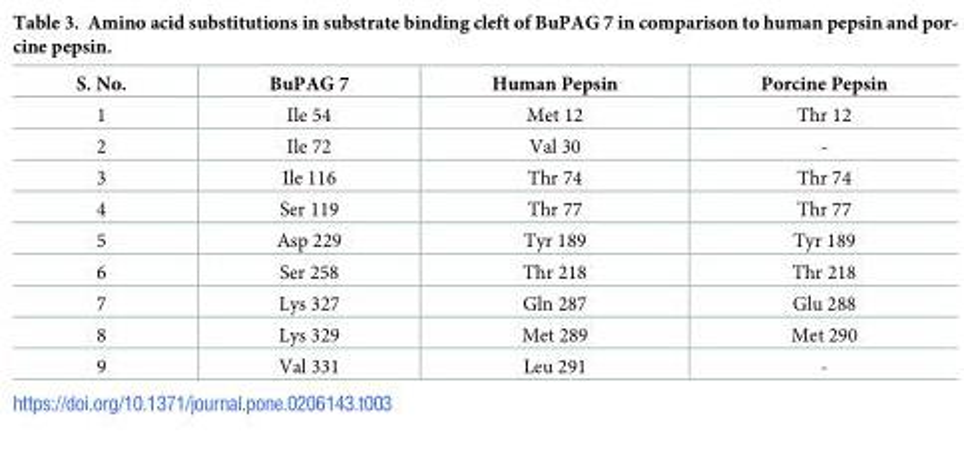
<table><thead><tr><td>S. No.</td><td>BuPAG 7</td><td>Human Pepsin</td><td>Porcine Pepsin</td></tr></thead><tbody><tr><td>1</td><td>Ile 54</td><td>Met 12</td><td>Thr 12</td></tr><tr><td>2</td><td>Ile 72</td><td>Val 30</td><td>-</td></tr><tr><td>3</td><td>Ile 116</td><td>Thr 74</td><td>Thr 74</td></tr><tr><td>4</td><td>Ser 119</td><td>Thr 77</td><td>Thr 77</td></tr><tr><td>5</td><td>Asp 229</td><td>Tyr 189</td><td>Tyr 189</td></tr><tr><td>6</td><td>Ser 258</td><td>Thr 218</td><td>Thr 218</td></tr><tr><td>7</td><td>Lys 327</td><td>Gln 287</td><td>Glu 288</td></tr><tr><td>8</td><td>Lys 329</td><td>Met 289</td><td>Met 290</td></tr><tr><td>9</td><td>Val 331</td><td>Leu 291</td><td>-</td></tr></tbody></table>